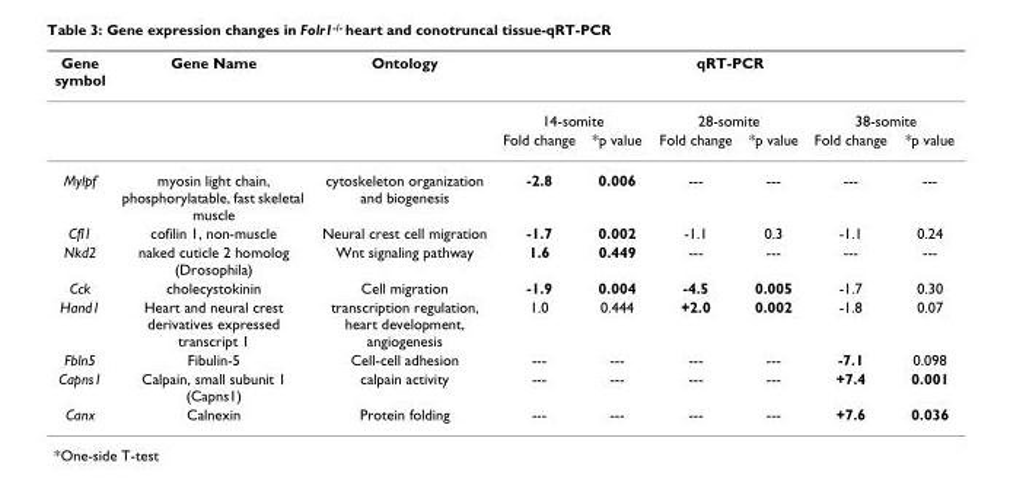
<table><thead><tr><td rowspan="3">Gene symbol</td><td rowspan="3">Gene Name</td><td rowspan="3">Ontology</td><td colspan="6">qRT-PCR</td></tr><tr><td colspan="2">14-somite</td><td colspan="2">28-somite</td><td colspan="2">38-somite</td></tr><tr><td>Fold change</td><td>*p value</td><td>Fold change</td><td>*p value</td><td>Fold change</td><td>*p value</td></tr></thead><tbody><tr><td>Mylpf</td><td>myosin light chain, phosphorylatable, fast skeletal muscle</td><td>cytoskeleton organization and biogenesis</td><td>-2.8</td><td>0.006</td><td>---</td><td>---</td><td>---</td><td>---</td></tr><tr><td>Cfl1</td><td>cofilin 1, non-muscle</td><td>Neural crest cell migration</td><td>-1.7</td><td>0.002</td><td>-1.1</td><td>0.3</td><td>-1.1</td><td>0.24</td></tr><tr><td>Nkd2</td><td>naked cuticle 2 homolog (Drosophila)</td><td>Wnt signaling pathway</td><td>1.6</td><td>0.449</td><td>---</td><td>---</td><td>---</td><td>---</td></tr><tr><td>Cck</td><td>cholecystokinin</td><td>Cell migration</td><td>-1.9</td><td>0.004</td><td>-4.5</td><td>0.005</td><td>-1.7</td><td>0.30</td></tr><tr><td>Hand1</td><td>Heart and neural crest derivatives expressed transcript 1</td><td>transcription regulation, heart development, angiogenesis</td><td>1.0</td><td>0.444</td><td>+2.0</td><td>0.002</td><td>-1.8</td><td>0.07</td></tr><tr><td>Fbln5</td><td>Fibulin-5</td><td>Cell-cell adhesion</td><td>---</td><td>---</td><td>---</td><td>---</td><td>-7.1</td><td>0.098</td></tr><tr><td>Capns1</td><td>Calpain, small subunit 1 (Capns1)</td><td>calpain activity</td><td>---</td><td>---</td><td>---</td><td>---</td><td>+7.4</td><td>0.001</td></tr><tr><td>Canx</td><td>Calnexin</td><td>Protein folding</td><td>---</td><td>---</td><td>---</td><td>---</td><td>+7.6</td><td>0.036</td></tr></tbody></table>